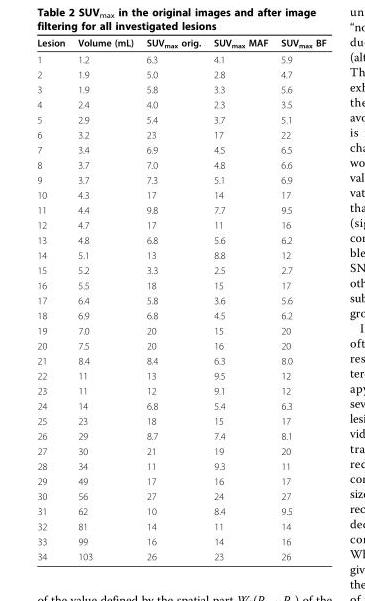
<table><thead><tr><td>Lesion</td><td>Volume (mL)</td><td>SUV<sub>max</sub> orig.</td><td>SUV<sub>max</sub> MAF</td><td>SUV<sub>max</sub> BF</td></tr></thead><tbody><tr><td>1</td><td>1.2</td><td>6.3</td><td>4.1</td><td>5.9</td></tr><tr><td>2</td><td>1.9</td><td>5.0</td><td>2.8</td><td>4.7</td></tr><tr><td>3</td><td>1.9</td><td>5.8</td><td>3.3</td><td>5.6</td></tr><tr><td>4</td><td>2.4</td><td>4.0</td><td>2.3</td><td>3.5</td></tr><tr><td>5</td><td>2.9</td><td>5.4</td><td>3.7</td><td>5.1</td></tr><tr><td>6</td><td>3.2</td><td>23</td><td>17</td><td>22</td></tr><tr><td>7</td><td>3.4</td><td>6.9</td><td>4.5</td><td>6.5</td></tr><tr><td>8</td><td>3.7</td><td>7.0</td><td>4.8</td><td>6.6</td></tr><tr><td>9</td><td>3.7</td><td>7.3</td><td>5.1</td><td>6.9</td></tr><tr><td>10</td><td>4.3</td><td>17</td><td>14</td><td>17</td></tr><tr><td>11</td><td>4.4</td><td>9.8</td><td>7.7</td><td>9.5</td></tr><tr><td>12</td><td>4.7</td><td>17</td><td>11</td><td>16</td></tr><tr><td>13</td><td>4.8</td><td>6.8</td><td>5.6</td><td>6.2</td></tr><tr><td>14</td><td>5.1</td><td>13</td><td>8.8</td><td>12</td></tr><tr><td>15</td><td>5.2</td><td>3.3</td><td>2.5</td><td>2.7</td></tr><tr><td>16</td><td>5.5</td><td>18</td><td>15</td><td>17</td></tr><tr><td>17</td><td>6.4</td><td>5.8</td><td>3.6</td><td>5.6</td></tr><tr><td>18</td><td>6.9</td><td>6.8</td><td>4.5</td><td>6.2</td></tr><tr><td>19</td><td>7.0</td><td>20</td><td>15</td><td>20</td></tr><tr><td>20</td><td>7.5</td><td>20</td><td>16</td><td>20</td></tr><tr><td>21</td><td>8.4</td><td>8.4</td><td>6.3</td><td>8.0</td></tr><tr><td>22</td><td>11</td><td>13</td><td>9.5</td><td>12</td></tr><tr><td>23</td><td>11</td><td>12</td><td>9.1</td><td>12</td></tr><tr><td>24</td><td>14</td><td>6.8</td><td>5.4</td><td>6.3</td></tr><tr><td>25</td><td>23</td><td>18</td><td>15</td><td>17</td></tr><tr><td>26</td><td>29</td><td>8.7</td><td>7.4</td><td>8.1</td></tr><tr><td>27</td><td>30</td><td>21</td><td>19</td><td>20</td></tr><tr><td>28</td><td>34</td><td>11</td><td>9.3</td><td>11</td></tr><tr><td>29</td><td>49</td><td>17</td><td>16</td><td>17</td></tr><tr><td>30</td><td>56</td><td>27</td><td>24</td><td>27</td></tr><tr><td>31</td><td>62</td><td>10</td><td>8.4</td><td>9.5</td></tr><tr><td>32</td><td>81</td><td>14</td><td>11</td><td>14</td></tr><tr><td>33</td><td>99</td><td>16</td><td>14</td><td>16</td></tr><tr><td>34</td><td>103</td><td>26</td><td>23</td><td>26</td></tr></tbody></table>